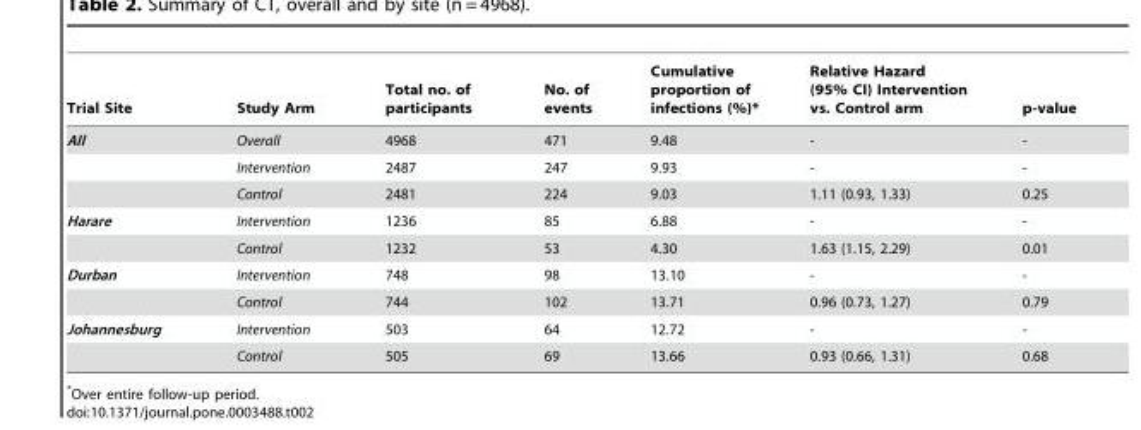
<table><thead><tr><td>Trial Site</td><td>Study Arm</td><td>Total no. of participants</td><td>No. of events</td><td>Cumulative proportion of infections (%)*</td><td>Relative Hazard (95% CI) Intervention vs. Control arm</td><td>p-value</td></tr></thead><tbody><tr><td rowspan="3">All</td><td>Overall</td><td>4968</td><td>471</td><td>9.48</td><td>-</td><td>-</td></tr><tr><td>Intervention</td><td>2487</td><td>247</td><td>9.93</td><td>-</td><td>-</td></tr><tr><td>Control</td><td>2481</td><td>224</td><td>9.03</td><td>1.11 (0.93, 1.33)</td><td>0.25</td></tr><tr><td rowspan="2">Harare</td><td>Intervention</td><td>1236</td><td>85</td><td>6.88</td><td>-</td><td>-</td></tr><tr><td>Control</td><td>1232</td><td>53</td><td>4.30</td><td>1.63 (1.15, 2.29)</td><td>0.01</td></tr><tr><td rowspan="2">Durban</td><td>Intervention</td><td>748</td><td>98</td><td>13.10</td><td>-</td><td>-</td></tr><tr><td>Control</td><td>744</td><td>102</td><td>13.71</td><td>0.96 (0.73, 1.27)</td><td>0.79</td></tr><tr><td rowspan="2">Johannesburg</td><td>Intervention</td><td>503</td><td>64</td><td>12.72</td><td>-</td><td>-</td></tr><tr><td>Control</td><td>505</td><td>69</td><td>13.66</td><td>0.93 (0.66, 1.31)</td><td>0.68</td></tr></tbody></table>